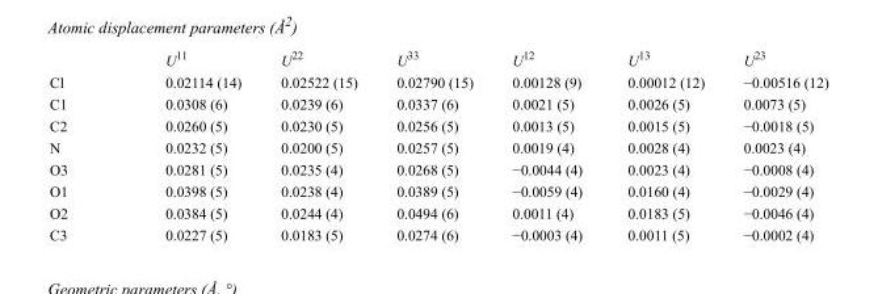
<table><thead><tr><td></td><td>U<sup>11</sup></td><td>U<sup>22</sup></td><td>U<sup>33</sup></td><td>U<sup>12</sup></td><td>U<sup>13</sup></td><td>U<sup>23</sup></td></tr></thead><tbody><tr><td>Cl</td><td>0.02114 (14)</td><td>0.02522 (15)</td><td>0.02790 (15)</td><td>0.00128 (9)</td><td>0.00012 (12)</td><td>−0.00516 (12)</td></tr><tr><td>C1</td><td>0.0308 (6)</td><td>0.0239 (6)</td><td>0.0337 (6)</td><td>0.0021 (5)</td><td>0.0026 (5)</td><td>0.0073 (5)</td></tr><tr><td>C2</td><td>0.0260 (5)</td><td>0.0230 (5)</td><td>0.0256 (5)</td><td>0.0013 (5)</td><td>0.0015 (5)</td><td>−0.0018 (5)</td></tr><tr><td>N</td><td>0.0232 (5)</td><td>0.0200 (5)</td><td>0.0257 (5)</td><td>0.0019 (4)</td><td>0.0028 (4)</td><td>0.0023 (4)</td></tr><tr><td>O3</td><td>0.0281 (5)</td><td>0.0235 (4)</td><td>0.0268 (5)</td><td>−0.0044 (4)</td><td>0.0023 (4)</td><td>−0.0008 (4)</td></tr><tr><td>O1</td><td>0.0398 (5)</td><td>0.0238 (4)</td><td>0.0389 (5)</td><td>−0.0059 (4)</td><td>0.0160 (4)</td><td>−0.0029 (4)</td></tr><tr><td>O2</td><td>0.0384 (5)</td><td>0.0244 (4)</td><td>0.0494 (6)</td><td>0.0011 (4)</td><td>0.0183 (5)</td><td>−0.0046 (4)</td></tr><tr><td>C3</td><td>0.0227 (5)</td><td>0.0183 (5)</td><td>0.0274 (6)</td><td>−0.0003 (4)</td><td>0.0011 (5)</td><td>−0.0002 (4)</td></tr></tbody></table>